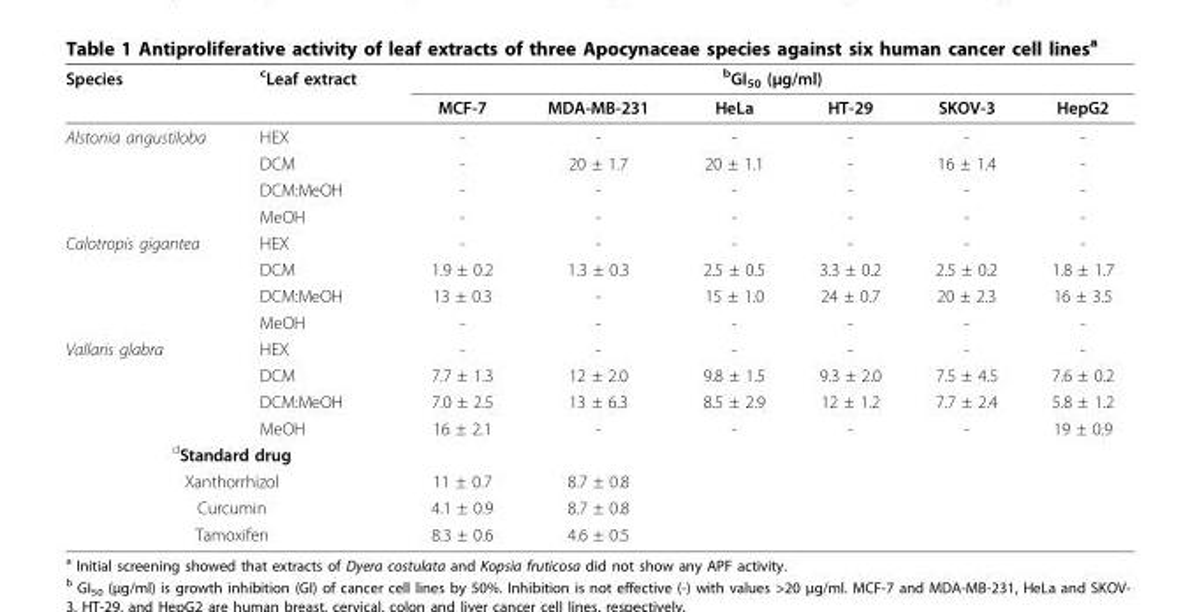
<table><thead><tr><td rowspan="2">Species</td><td rowspan="2"><sup>c</sup>Leaf extract</td><td colspan="6"><sup>b</sup>GI<sub>50</sub> (μg/ml)</td></tr><tr><td>MCF-7</td><td>MDA-MB-231</td><td>HeLa</td><td>HT-29</td><td>SKOV-3</td><td>HepG2</td></tr></thead><tbody><tr><td rowspan="4">Alstonia angustiloba</td><td>HEX</td><td>-</td><td>-</td><td>-</td><td>-</td><td>-</td><td>-</td></tr><tr><td>DCM</td><td>-</td><td>20 ± 1.7</td><td>20 ± 1.1</td><td>-</td><td>16 ± 1.4</td><td>-</td></tr><tr><td>DCM:MeOH</td><td>-</td><td>-</td><td>-</td><td>-</td><td>-</td><td>-</td></tr><tr><td>MeOH</td><td>-</td><td>-</td><td>-</td><td>-</td><td>-</td><td>-</td></tr><tr><td rowspan="4">Calotropis gigantea</td><td>HEX</td><td>-</td><td>-</td><td>-</td><td>-</td><td>-</td><td>-</td></tr><tr><td>DCM</td><td>1.9 ± 0.2</td><td>1.3 ± 0.3</td><td>2.5 ± 0.5</td><td>3.3 ± 0.2</td><td>2.5 ± 0.2</td><td>1.8 ± 1.7</td></tr><tr><td>DCM:MeOH</td><td>13 ± 0.3</td><td>-</td><td>15 ± 1.0</td><td>24 ± 0.7</td><td>20 ± 2.3</td><td>16 ± 3.5</td></tr><tr><td>MeOH</td><td>-</td><td>-</td><td>-</td><td>-</td><td>-</td><td>-</td></tr><tr><td rowspan="4">Vallaris glabra</td><td>HEX</td><td>-</td><td>-</td><td>-</td><td>-</td><td>-</td><td>-</td></tr><tr><td>DCM</td><td>7.7 ± 1.3</td><td>12 ± 2.0</td><td>9.8 ± 1.5</td><td>9.3 ± 2.0</td><td>7.5 ± 4.5</td><td>7.6 ± 0.2</td></tr><tr><td>DCM:MeOH</td><td>7.0 ± 2.5</td><td>13 ± 6.3</td><td>8.5 ± 2.9</td><td>12 ± 1.2</td><td>7.7 ± 2.4</td><td>5.8 ± 1.2</td></tr><tr><td>MeOH</td><td>16 ± 2.1</td><td>-</td><td>-</td><td>-</td><td>-</td><td>19 ± 0.9</td></tr><tr><td colspan="8"><sup>d</sup>Standard drug</td></tr><tr><td colspan="2">Xanthorrhizol</td><td>11 ± 0.7</td><td>8.7 ± 0.8</td><td></td><td></td><td></td><td></td></tr><tr><td colspan="2">Curcumin</td><td>4.1 ± 0.9</td><td>8.7 ± 0.8</td><td></td><td></td><td></td><td></td></tr><tr><td colspan="2">Tamoxifen</td><td>8.3 ± 0.6</td><td>4.6 ± 0.5</td><td></td><td></td><td></td><td></td></tr></tbody></table>